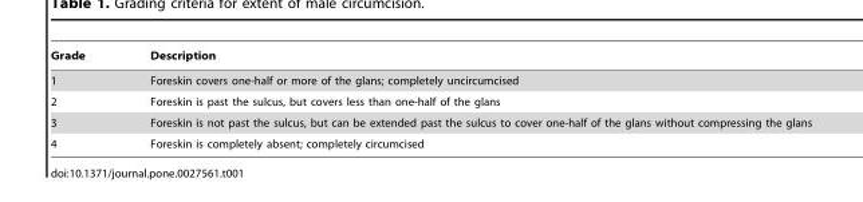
<table><thead><tr><td>Grade</td><td>Description</td></tr></thead><tbody><tr><td>1</td><td>Foreskin covers one-half or more of the glans; completely uncircumcised</td></tr><tr><td>2</td><td>Foreskin is past the sulcus, but covers less than one-half of the glans</td></tr><tr><td>3</td><td>Foreskin is not past the sulcus, but can be extended past the sulcus to cover one-half of the glans without compressing the glans</td></tr><tr><td>4</td><td>Foreskin is completely absent; completely circumcised</td></tr></tbody></table>